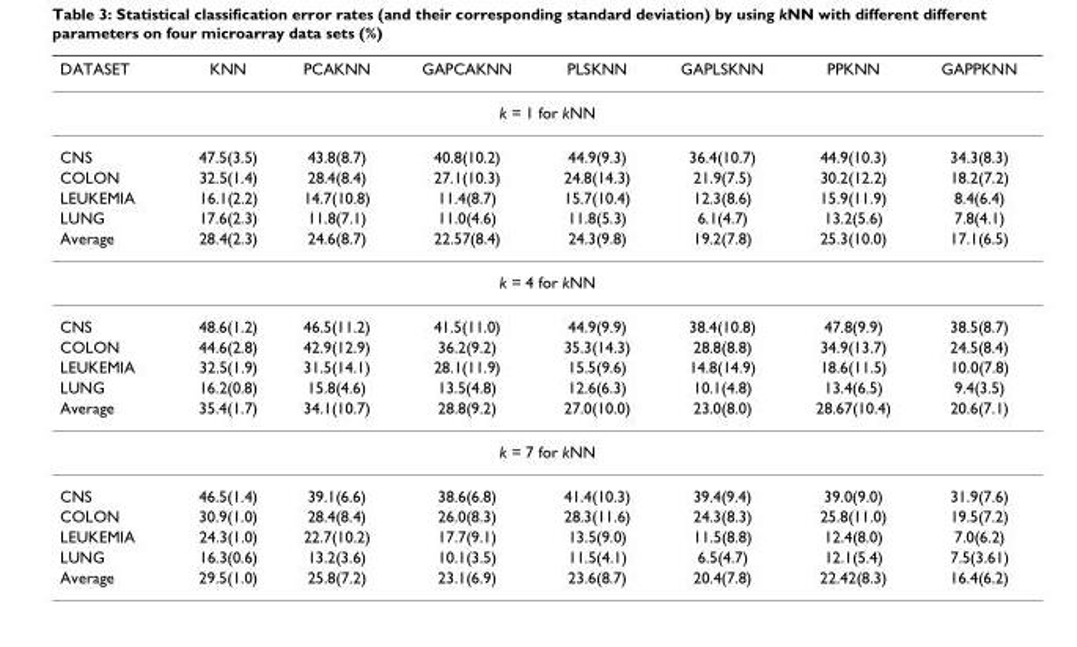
<table><thead><tr><td>DATASET</td><td>KNN</td><td>PCAKNN</td><td>GAPCAKNN</td><td>PLSKNN</td><td>GAPLSKNN</td><td>PPKNN</td><td>GAPPKNN</td></tr></thead><tbody><tr><td colspan="8">k = 1 for kNN</td></tr><tr><td>CNS</td><td>47.5(3.5)</td><td>43.8(8.7)</td><td>40.8(10.2)</td><td>44.9(9.3)</td><td>36.4(10.7)</td><td>44.9(10.3)</td><td>34.3(8.3)</td></tr><tr><td>COLON</td><td>32.5(1.4)</td><td>28.4(8.4)</td><td>27.1(10.3)</td><td>24.8(14.3)</td><td>21.9(7.5)</td><td>30.2(12.2)</td><td>18.2(7.2)</td></tr><tr><td>LEUKEMIA</td><td>16.1(2.2)</td><td>14.7(10.8)</td><td>11.4(8.7)</td><td>15.7(10.4)</td><td>12.3(8.6)</td><td>15.9(11.9)</td><td>8.4(6.4)</td></tr><tr><td>LUNG</td><td>17.6(2.3)</td><td>11.8(7.1)</td><td>11.0(4.6)</td><td>11.8(5.3)</td><td>6.1(4.7)</td><td>13.2(5.6)</td><td>7.8(4.1)</td></tr><tr><td>Average</td><td>28.4(2.3)</td><td>24.6(8.7)</td><td>22.57(8.4)</td><td>24.3(9.8)</td><td>19.2(7.8)</td><td>25.3(10.0)</td><td>17.1(6.5)</td></tr><tr><td colspan="8">k = 4 for kNN</td></tr><tr><td>CNS</td><td>48.6(1.2)</td><td>46.5(11.2)</td><td>41.5(11.0)</td><td>44.9(9.9)</td><td>38.4(10.8)</td><td>47.8(9.9)</td><td>38.5(8.7)</td></tr><tr><td>COLON</td><td>44.6(2.8)</td><td>42.9(12.9)</td><td>36.2(9.2)</td><td>35.3(14.3)</td><td>28.8(8.8)</td><td>34.9(13.7)</td><td>24.5(8.4)</td></tr><tr><td>LEUKEMIA</td><td>32.5(1.9)</td><td>31.5(14.1)</td><td>28.1(11.9)</td><td>15.5(9.6)</td><td>14.8(14.9)</td><td>18.6(11.5)</td><td>10.0(7.8)</td></tr><tr><td>LUNG</td><td>16.2(0.8)</td><td>15.8(4.6)</td><td>13.5(4.8)</td><td>12.6(6.3)</td><td>10.1(4.8)</td><td>13.4(6.5)</td><td>9.4(3.5)</td></tr><tr><td>Average</td><td>35.4(1.7)</td><td>34.1(10.7)</td><td>28.8(9.2)</td><td>27.0(10.0)</td><td>23.0(8.0)</td><td>28.67(10.4)</td><td>20.6(7.1)</td></tr><tr><td colspan="8">k = 7 for kNN</td></tr><tr><td>CNS</td><td>46.5(1.4)</td><td>39.1(6.6)</td><td>38.6(6.8)</td><td>41.4(10.3)</td><td>39.4(9.4)</td><td>39.0(9.0)</td><td>31.9(7.6)</td></tr><tr><td>COLON</td><td>30.9(1.0)</td><td>28.4(8.4)</td><td>26.0(8.3)</td><td>28.3(11.6)</td><td>24.3(8.3)</td><td>25.8(11.0)</td><td>19.5(7.2)</td></tr><tr><td>LEUKEMIA</td><td>24.3(1.0)</td><td>22.7(10.2)</td><td>17.7(9.1)</td><td>13.5(9.0)</td><td>11.5(8.8)</td><td>12.4(8.0)</td><td>7.0(6.2)</td></tr><tr><td>LUNG</td><td>16.3(0.6)</td><td>13.2(3.6)</td><td>10.1(3.5)</td><td>11.5(4.1)</td><td>6.5(4.7)</td><td>12.1(5.4)</td><td>7.5(3.61)</td></tr><tr><td>Average</td><td>29.5(1.0)</td><td>25.8(7.2)</td><td>23.1(6.9)</td><td>23.6(8.7)</td><td>20.4(7.8)</td><td>22.42(8.3)</td><td>16.4(6.2)</td></tr></tbody></table>